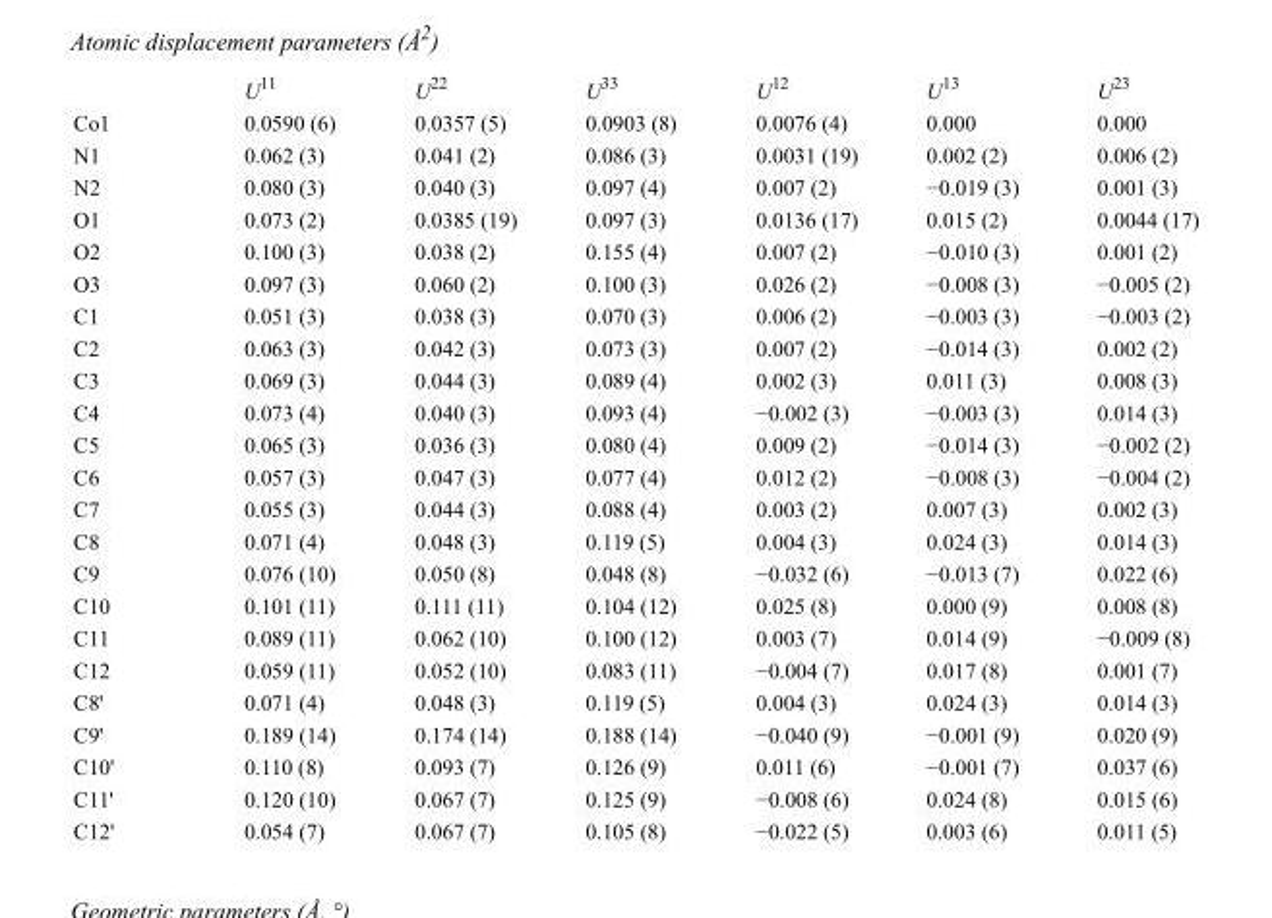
<table><thead><tr><td></td><td>U<sup>11</sup></td><td>U<sup>22</sup></td><td>U<sup>33</sup></td><td>U<sup>12</sup></td><td>U<sup>13</sup></td><td>U<sup>23</sup></td></tr></thead><tbody><tr><td>Co1</td><td>0.0590 (6)</td><td>0.0357 (5)</td><td>0.0903 (8)</td><td>0.0076 (4)</td><td>0.000</td><td>0.000</td></tr><tr><td>N1</td><td>0.062 (3)</td><td>0.041 (2)</td><td>0.086 (3)</td><td>0.0031 (19)</td><td>0.002 (2)</td><td>0.006 (2)</td></tr><tr><td>N2</td><td>0.080 (3)</td><td>0.040 (3)</td><td>0.097 (4)</td><td>0.007 (2)</td><td>−0.019 (3)</td><td>0.001 (3)</td></tr><tr><td>O1</td><td>0.073 (2)</td><td>0.0385 (19)</td><td>0.097 (3)</td><td>0.0136 (17)</td><td>0.015 (2)</td><td>0.0044 (17)</td></tr><tr><td>O2</td><td>0.100 (3)</td><td>0.038 (2)</td><td>0.155 (4)</td><td>0.007 (2)</td><td>−0.010 (3)</td><td>0.001 (2)</td></tr><tr><td>O3</td><td>0.097 (3)</td><td>0.060 (2)</td><td>0.100 (3)</td><td>0.026 (2)</td><td>−0.008 (3)</td><td>−0.005 (2)</td></tr><tr><td>C1</td><td>0.051 (3)</td><td>0.038 (3)</td><td>0.070 (3)</td><td>0.006 (2)</td><td>−0.003 (3)</td><td>−0.003 (2)</td></tr><tr><td>C2</td><td>0.063 (3)</td><td>0.042 (3)</td><td>0.073 (3)</td><td>0.007 (2)</td><td>−0.014 (3)</td><td>0.002 (2)</td></tr><tr><td>C3</td><td>0.069 (3)</td><td>0.044 (3)</td><td>0.089 (4)</td><td>0.002 (3)</td><td>0.011 (3)</td><td>0.008 (3)</td></tr><tr><td>C4</td><td>0.073 (4)</td><td>0.040 (3)</td><td>0.093 (4)</td><td>−0.002 (3)</td><td>−0.003 (3)</td><td>0.014 (3)</td></tr><tr><td>C5</td><td>0.065 (3)</td><td>0.036 (3)</td><td>0.080 (4)</td><td>0.009 (2)</td><td>−0.014 (3)</td><td>−0.002 (2)</td></tr><tr><td>C6</td><td>0.057 (3)</td><td>0.047 (3)</td><td>0.077 (4)</td><td>0.012 (2)</td><td>−0.008 (3)</td><td>−0.004 (2)</td></tr><tr><td>C7</td><td>0.055 (3)</td><td>0.044 (3)</td><td>0.088 (4)</td><td>0.003 (2)</td><td>0.007 (3)</td><td>0.002 (3)</td></tr><tr><td>C8</td><td>0.071 (4)</td><td>0.048 (3)</td><td>0.119 (5)</td><td>0.004 (3)</td><td>0.024 (3)</td><td>0.014 (3)</td></tr><tr><td>C9</td><td>0.076 (10)</td><td>0.050 (8)</td><td>0.048 (8)</td><td>−0.032 (6)</td><td>−0.013 (7)</td><td>0.022 (6)</td></tr><tr><td>C10</td><td>0.101 (11)</td><td>0.111 (11)</td><td>0.104 (12)</td><td>0.025 (8)</td><td>0.000 (9)</td><td>0.008 (8)</td></tr><tr><td>C11</td><td>0.089 (11)</td><td>0.062 (10)</td><td>0.100 (12)</td><td>0.003 (7)</td><td>0.014 (9)</td><td>−0.009 (8)</td></tr><tr><td>C12</td><td>0.059 (11)</td><td>0.052 (10)</td><td>0.083 (11)</td><td>−0.004 (7)</td><td>0.017 (8)</td><td>0.001 (7)</td></tr><tr><td>C8&#x27;</td><td>0.071 (4)</td><td>0.048 (3)</td><td>0.119 (5)</td><td>0.004 (3)</td><td>0.024 (3)</td><td>0.014 (3)</td></tr><tr><td>C9&#x27;</td><td>0.189 (14)</td><td>0.174 (14)</td><td>0.188 (14)</td><td>−0.040 (9)</td><td>−0.001 (9)</td><td>0.020 (9)</td></tr><tr><td>C10&#x27;</td><td>0.110 (8)</td><td>0.093 (7)</td><td>0.126 (9)</td><td>0.011 (6)</td><td>−0.001 (7)</td><td>0.037 (6)</td></tr><tr><td>C11&#x27;</td><td>0.120 (10)</td><td>0.067 (7)</td><td>0.125 (9)</td><td>−0.008 (6)</td><td>0.024 (8)</td><td>0.015 (6)</td></tr><tr><td>C12&#x27;</td><td>0.054 (7)</td><td>0.067 (7)</td><td>0.105 (8)</td><td>−0.022 (5)</td><td>0.003 (6)</td><td>0.011 (5)</td></tr></tbody></table>